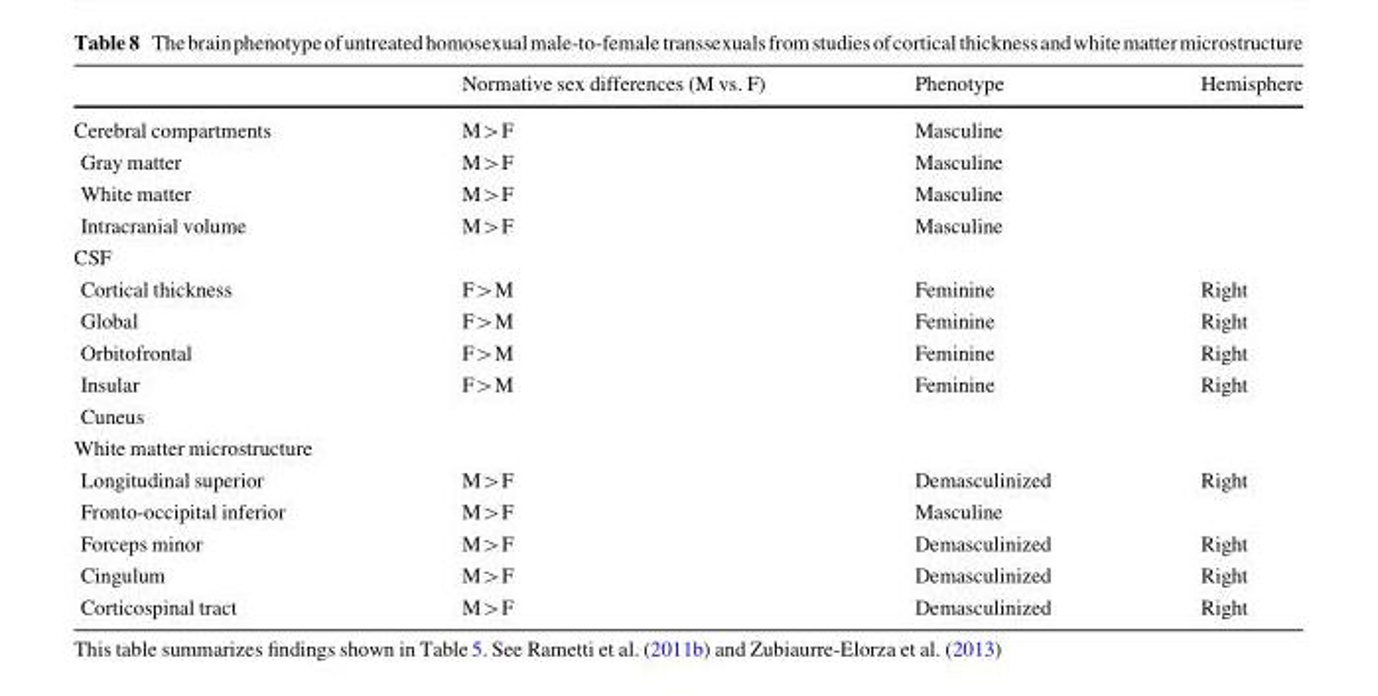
<table><thead><tr><td></td><td>Normative sex differences (M vs. F)</td><td>Phenotype</td><td>Hemisphere</td></tr></thead><tbody><tr><td>Cerebral compartments</td><td>M&gt;F</td><td>Masculine</td><td></td></tr><tr><td>Gray matter</td><td>M&gt;F</td><td>Masculine</td><td></td></tr><tr><td>White matter</td><td>M&gt;F</td><td>Masculine</td><td></td></tr><tr><td>Intracranial volume</td><td>M&gt;F</td><td>Masculine</td><td></td></tr><tr><td colspan="4">CSF</td></tr><tr><td>Cortical thickness</td><td>F&gt;M</td><td>Feminine</td><td>Right</td></tr><tr><td>Global</td><td>F&gt;M</td><td>Feminine</td><td>Right</td></tr><tr><td>Orbitofrontal</td><td>F&gt;M</td><td>Feminine</td><td>Right</td></tr><tr><td>Insular</td><td>F&gt;M</td><td>Feminine</td><td>Right</td></tr><tr><td colspan="4">Cuneus</td></tr><tr><td colspan="4">White matter microstructure</td></tr><tr><td>Longitudinal superior</td><td>M&gt;F</td><td>Demasculinized</td><td>Right</td></tr><tr><td>Fronto-occipital inferior</td><td>M&gt;F</td><td>Masculine</td><td></td></tr><tr><td>Forceps minor</td><td>M&gt;F</td><td>Demasculinized</td><td>Right</td></tr><tr><td>Cingulum</td><td>M&gt;F</td><td>Demasculinized</td><td>Right</td></tr><tr><td>Corticospinal tract</td><td>M&gt;F</td><td>Demasculinized</td><td>Right</td></tr></tbody></table>